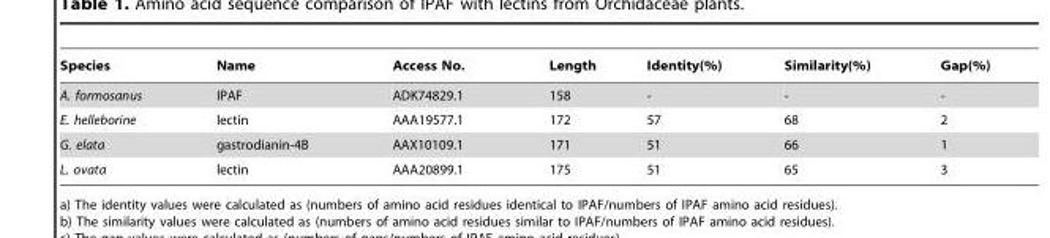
<table><thead><tr><td>Species</td><td>Name</td><td>Access No.</td><td>Length</td><td>Identity(%)</td><td>Similarity(%)</td><td>Gap(%)</td></tr></thead><tbody><tr><td>A. formosanus</td><td>IPAF</td><td>ADK74829.1</td><td>158</td><td>-</td><td>-</td><td>-</td></tr><tr><td>E. helleborine</td><td>lectin</td><td>AAA19577.1</td><td>172</td><td>57</td><td>68</td><td>2</td></tr><tr><td>G. elata</td><td>gastrodianin-4B</td><td>AAX10109.1</td><td>171</td><td>51</td><td>66</td><td>1</td></tr><tr><td>L. ovata</td><td>lectin</td><td>AAA20899.1</td><td>175</td><td>51</td><td>65</td><td>3</td></tr></tbody></table>